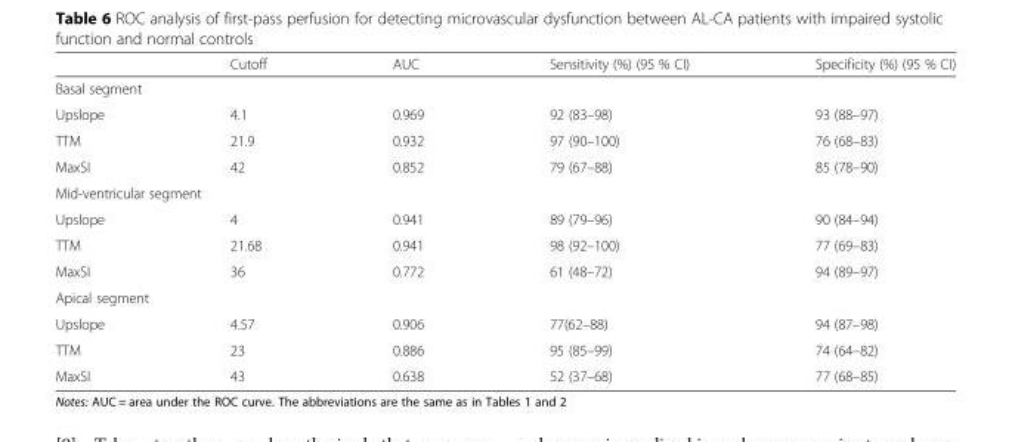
<table><thead><tr><td></td><td>Cutoff</td><td>AUC</td><td>Sensitivity (%) (95 % CI)</td><td>Specificity (%) (95 % CI)</td></tr></thead><tbody><tr><td colspan="5">Basal segment</td></tr><tr><td>Upslope</td><td>4.1</td><td>0.969</td><td>92 (83–98)</td><td>93 (88–97)</td></tr><tr><td>TTM</td><td>21.9</td><td>0.932</td><td>97 (90–100)</td><td>76 (68–83)</td></tr><tr><td>MaxSI</td><td>42</td><td>0.852</td><td>79 (67–88)</td><td>85 (78–90)</td></tr><tr><td colspan="5">Mid-ventricular segment</td></tr><tr><td>Upslope</td><td>4</td><td>0.941</td><td>89 (79–96)</td><td>90 (84–94)</td></tr><tr><td>TTM</td><td>21.68</td><td>0.941</td><td>98 (92–100)</td><td>77 (69–83)</td></tr><tr><td>MaxSI</td><td>36</td><td>0.772</td><td>61 (48–72)</td><td>94 (89–97)</td></tr><tr><td colspan="5">Apical segment</td></tr><tr><td>Upslope</td><td>4.57</td><td>0.906</td><td>77(62–88)</td><td>94 (87–98)</td></tr><tr><td>TTM</td><td>23</td><td>0.886</td><td>95 (85–99)</td><td>74 (64–82)</td></tr><tr><td>MaxSI</td><td>43</td><td>0.638</td><td>52 (37–68)</td><td>77 (68–85)</td></tr></tbody></table>